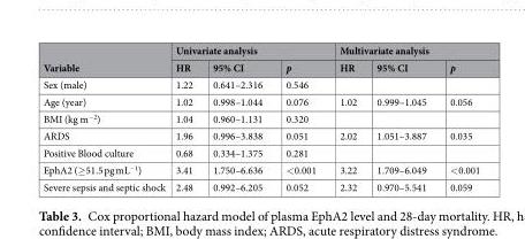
<table><thead><tr><td rowspan="2">Variable</td><td colspan="3">Univariate analysis</td><td colspan="3">Multivariate analysis</td></tr><tr><td>HR</td><td>95% CI</td><td>p</td><td>HR</td><td>95% CI</td><td>p</td></tr></thead><tbody><tr><td>Sex (male)</td><td>1.22</td><td>0.641–2.316</td><td>0.546</td><td></td><td></td><td></td></tr><tr><td>Age (year)</td><td>1.02</td><td>0.998–1.044</td><td>0.076</td><td>1.02</td><td>0.999–1.045</td><td>0.056</td></tr><tr><td>BMI (kg m<sup>−2</sup>)</td><td>1.04</td><td>0.960–1.131</td><td>0.320</td><td></td><td></td><td></td></tr><tr><td>ARDS</td><td>1.96</td><td>0.996–3.838</td><td>0.051</td><td>2.02</td><td>1.051–3.887</td><td>0.035</td></tr><tr><td>Positive Blood culture</td><td>0.68</td><td>0.334–1.375</td><td>0.281</td><td></td><td></td><td></td></tr><tr><td>EphA2 (≥51.5 pg mL<sup>−1</sup>)</td><td>3.41</td><td>1.750–6.636</td><td>&lt;0.001</td><td>3.22</td><td>1.709–6.049</td><td>&lt;0.001</td></tr><tr><td>Severe sepsis and septic shock</td><td>2.48</td><td>0.992–6.205</td><td>0.052</td><td>2.32</td><td>0.970–5.541</td><td>0.059</td></tr></tbody></table>